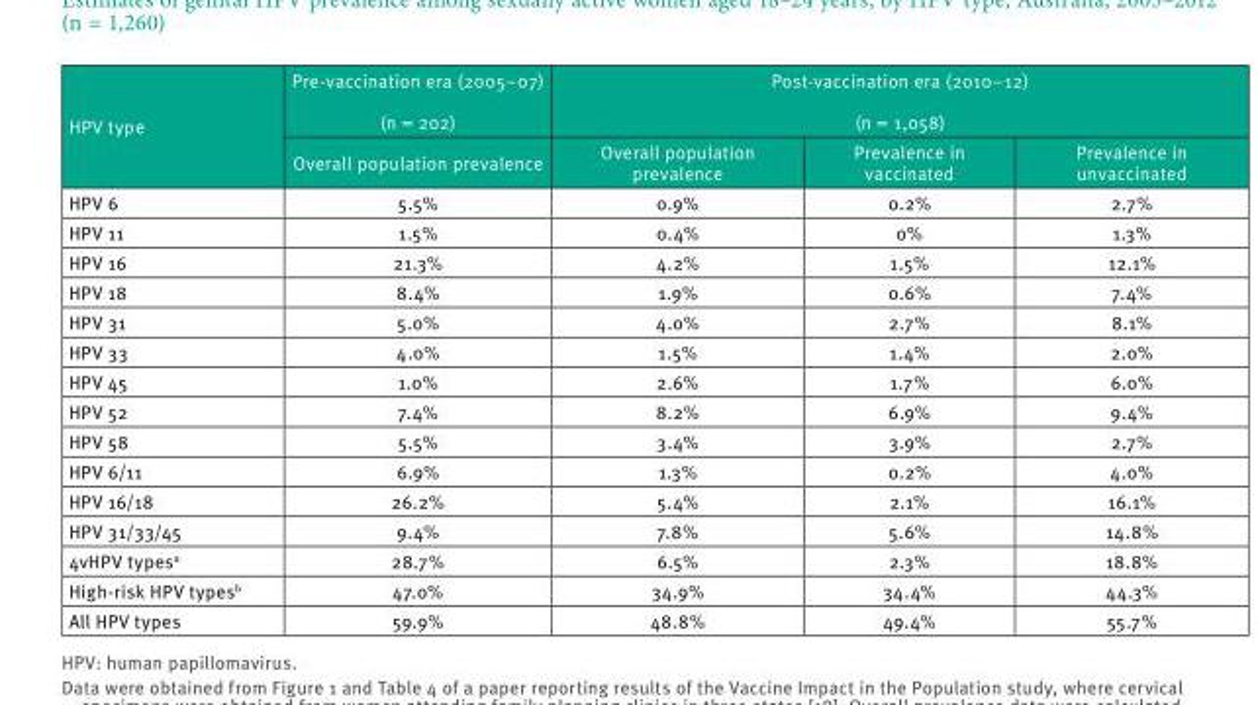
<table><thead><tr><td rowspan="2">HPV type</td><td rowspan="2">Pre-vaccination era (2005–07) (n = 202) Overall population prevalence</td><td colspan="3">Post-vaccination era (2010–12) (n = 1,058)</td></tr><tr><td>Overall population prevalence</td><td>Prevalence in vaccinated</td><td>Prevalence in unvaccinated</td></tr></thead><tbody><tr><td>HPV 6</td><td>5.5%</td><td>0.9%</td><td>0.2%</td><td>2.7%</td></tr><tr><td>HPV 11</td><td>1.5%</td><td>0.4%</td><td>0%</td><td>1.3%</td></tr><tr><td>HPV 16</td><td>21.3%</td><td>4.2%</td><td>1.5%</td><td>12.1%</td></tr><tr><td>HPV 18</td><td>8.4%</td><td>1.9%</td><td>0.6%</td><td>7.4%</td></tr><tr><td>HPV 31</td><td>5.0%</td><td>4.0%</td><td>2.7%</td><td>8.1%</td></tr><tr><td>HPV 33</td><td>4.0%</td><td>1.5%</td><td>1.4%</td><td>2.0%</td></tr><tr><td>HPV 45</td><td>1.0%</td><td>2.6%</td><td>1.7%</td><td>6.0%</td></tr><tr><td>HPV 52</td><td>7.4%</td><td>8.2%</td><td>6.9%</td><td>9.4%</td></tr><tr><td>HPV 58</td><td>5.5%</td><td>3.4%</td><td>3.9%</td><td>2.7%</td></tr><tr><td>HPV 6/11</td><td>6.9%</td><td>1.3%</td><td>0.2%</td><td>4.0%</td></tr><tr><td>HPV 16/18</td><td>26.2%</td><td>5.4%</td><td>2.1%</td><td>16.1%</td></tr><tr><td>HPV 31/33/45</td><td>9.4%</td><td>7.8%</td><td>5.6%</td><td>14.8%</td></tr><tr><td>4vHPV types<sup>a</sup></td><td>28.7%</td><td>6.5%</td><td>2.3%</td><td>18.8%</td></tr><tr><td>High-risk HPV types<sup>b</sup></td><td>47.0%</td><td>34.9%</td><td>34.4%</td><td>44.3%</td></tr><tr><td>All HPV types</td><td>59.9%</td><td>48.8%</td><td>49.4%</td><td>55.7%</td></tr></tbody></table>